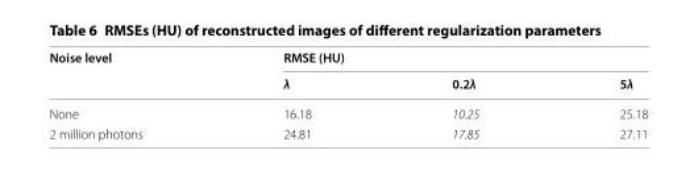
<table><thead><tr><td rowspan="2">Noise level</td><td colspan="3">RMSE (HU)</td></tr><tr><td>λ</td><td>0.2λ</td><td>5λ</td></tr></thead><tbody><tr><td>None</td><td>16.18</td><td>10.25</td><td>25.18</td></tr><tr><td>2 million photons</td><td>24.81</td><td>17.85</td><td>27.11</td></tr></tbody></table>